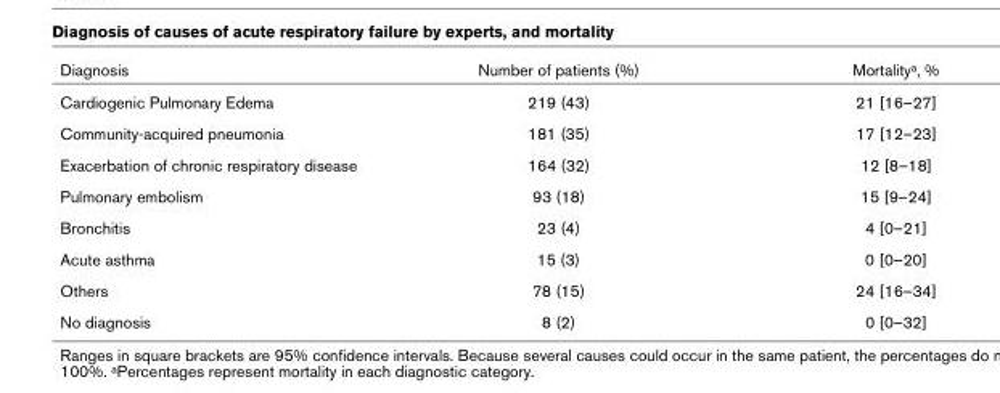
<table><thead><tr><td>Diagnosis</td><td>Number of patients (%)</td><td>Mortalitya, %</td></tr></thead><tbody><tr><td>Cardiogenic Pulmonary Edema</td><td>219 (43)</td><td>21 [16–27]</td></tr><tr><td>Community-acquired pneumonia</td><td>181 (35)</td><td>17 [12–23]</td></tr><tr><td>Exacerbation of chronic respiratory disease</td><td>164 (32)</td><td>12 [8–18]</td></tr><tr><td>Pulmonary embolism</td><td>93 (18)</td><td>15 [9–24]</td></tr><tr><td>Bronchitis</td><td>23 (4)</td><td>4 [0–21]</td></tr><tr><td>Acute asthma</td><td>15 (3)</td><td>0 [0–20]</td></tr><tr><td>Others</td><td>78 (15)</td><td>24 [16–34]</td></tr><tr><td>No diagnosis</td><td>8 (2)</td><td>0 [0–32]</td></tr></tbody></table>